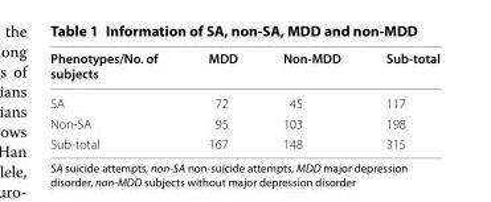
<table><thead><tr><td>Phenotypes/No. of subjects</td><td>MDD</td><td>Non-MDD</td><td>Sub-total</td></tr></thead><tbody><tr><td>SA</td><td>72</td><td>45</td><td>117</td></tr><tr><td>Non-SA</td><td>95</td><td>103</td><td>198</td></tr><tr><td>Sub-total</td><td>167</td><td>148</td><td>315</td></tr></tbody></table>